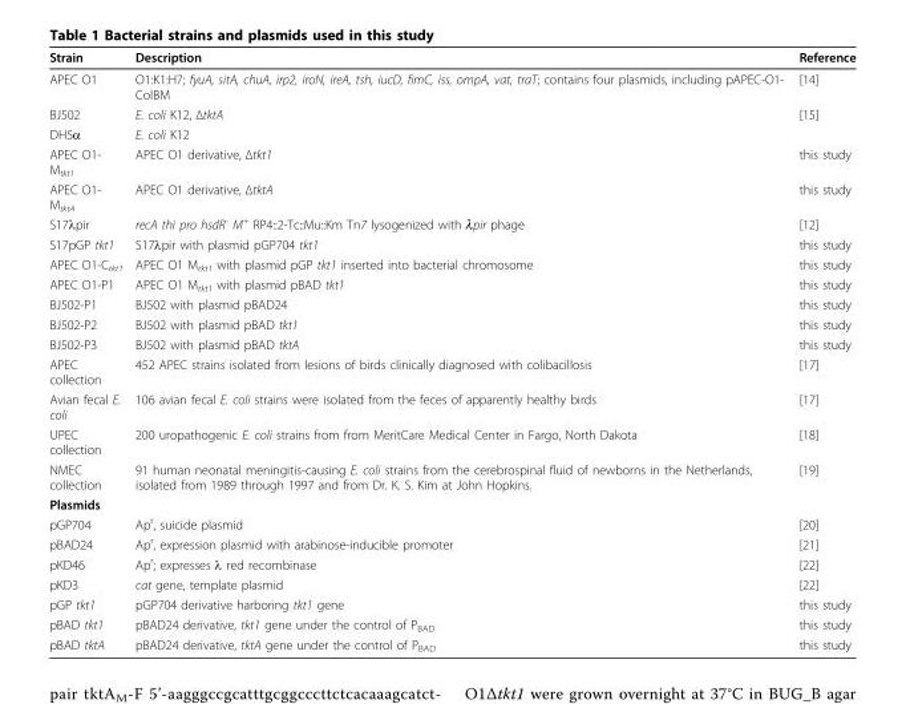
<table><thead><tr><td>Strain</td><td>Description</td><td>Reference</td></tr></thead><tbody><tr><td>APEC O1</td><td>O1:K1:H7; fyuA, sitA, chuA, irp2, iroN, ireA, tsh, iucD, fimC, iss, ompA, vat, traT; contains four plasmids, including pAPEC-O1- ColBM</td><td>[14]</td></tr><tr><td>BJ502</td><td>E. coli K12, ΔtktA</td><td>[15]</td></tr><tr><td>DH5α</td><td>E. coli K12</td><td></td></tr><tr><td>APEC O1- M<sub>tkt1</sub></td><td>APEC O1 derivative, Δtkt1</td><td>this study</td></tr><tr><td>APEC O1- M<sub>tktA</sub></td><td>APEC O1 derivative, ΔtktA</td><td>this study</td></tr><tr><td>S17λpir</td><td>recA thi pro hsdR<sup>-</sup> M<sup>+</sup> RP4::2-Tc::Mu::Km Tn7 lysogenized with λpir phage</td><td>[12]</td></tr><tr><td>S17pGP tkt1</td><td>S17λpir with plasmid pGP704 tkt1</td><td>this study</td></tr><tr><td>APEC O1-C<sub>tkt1</sub></td><td>APEC O1 M<sub>tkt1</sub> with plasmid pGP tkt1 inserted into bacterial chromosome</td><td>this study</td></tr><tr><td>APEC O1-P1</td><td>APEC O1 M<sub>tkt1</sub> with plasmid pBAD tkt1</td><td>this study</td></tr><tr><td>BJ502-P1</td><td>BJ502 with plasmid pBAD24</td><td>this study</td></tr><tr><td>BJ502-P2</td><td>BJ502 with plasmid pBAD tkt1</td><td>this study</td></tr><tr><td>BJ502-P3</td><td>BJ502 with plasmid pBAD tktA</td><td>this study</td></tr><tr><td>APEC collection</td><td>452 APEC strains isolated from lesions of birds clinically diagnosed with colibacillosis</td><td>[17]</td></tr><tr><td>Avian fecal E. coli</td><td>106 avian fecal E. coli strains were isolated from the feces of apparently healthy birds</td><td>[17]</td></tr><tr><td>UPEC collection</td><td>200 uropathogenic E. coli strains from from MeritCare Medical Center in Fargo, North Dakota</td><td>[18]</td></tr><tr><td>NMEC collection</td><td>91 human neonatal meningitis-causing E. coli strains from the cerebrospinal fluid of newborns in the Netherlands, isolated from 1989 through 1997 and from Dr. K. S. Kim at John Hopkins.</td><td>[19]</td></tr><tr><td colspan="3">Plasmids</td></tr><tr><td>pGP704</td><td>Ap<sup>r</sup>, suicide plasmid</td><td>[20]</td></tr><tr><td>pBAD24</td><td>Ap<sup>r</sup>, expression plasmid with arabinose-inducible promoter</td><td>[21]</td></tr><tr><td>pKD46</td><td>Ap<sup>r</sup>; expresses λ red recombinase</td><td>[22]</td></tr><tr><td>pKD3</td><td>cat gene, template plasmid</td><td>[22]</td></tr><tr><td>pGP tkt1</td><td>pGP704 derivative harboring tkt1 gene</td><td>this study</td></tr><tr><td>pBAD tkt1</td><td>pBAD24 derivative, tkt1 gene under the control of P<sub>BAD</sub></td><td>this study</td></tr><tr><td>pBAD tktA</td><td>pBAD24 derivative, tktA gene under the control of P<sub>BAD</sub></td><td>this study</td></tr></tbody></table>